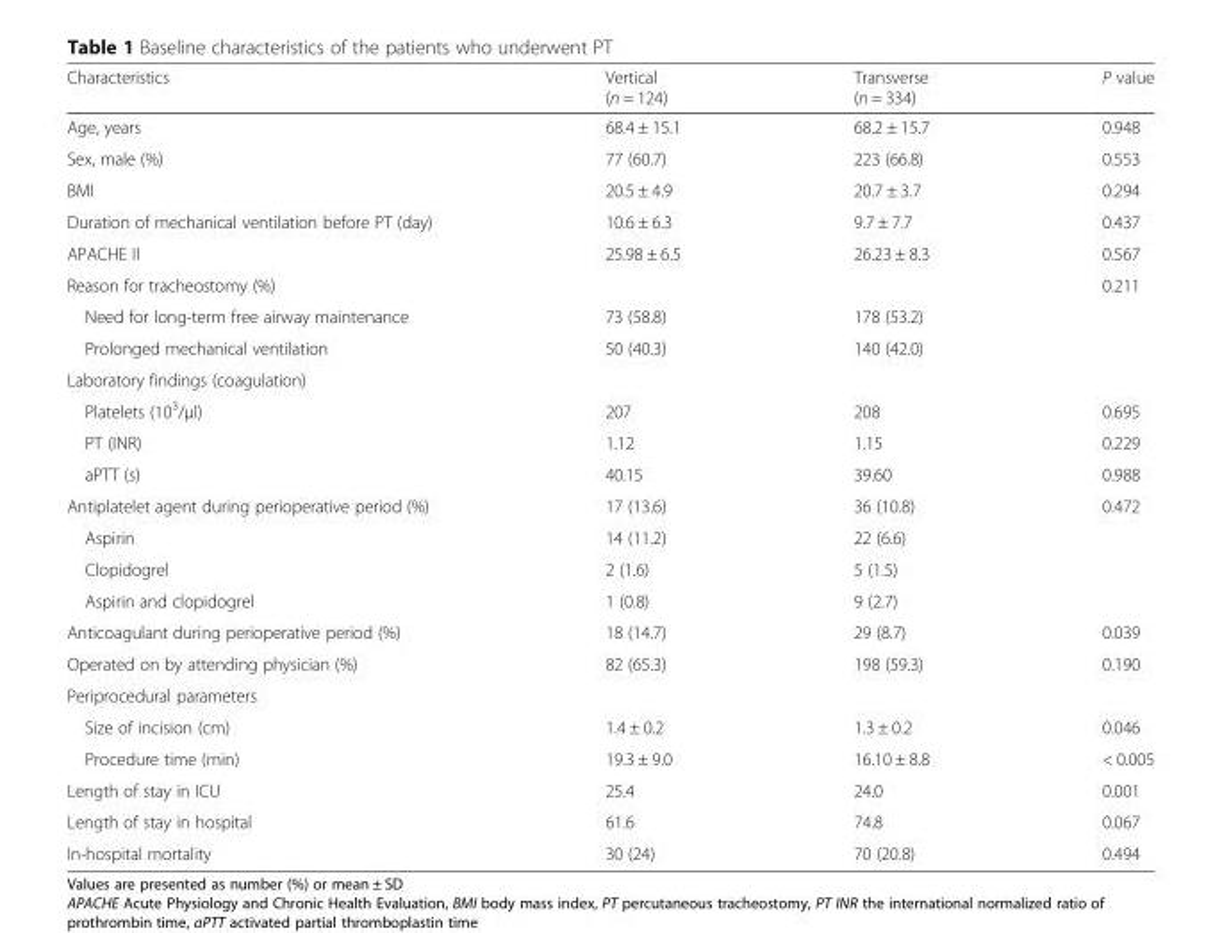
<table><thead><tr><td>Characteristics</td><td>Vertical (n = 124)</td><td>Transverse (n = 334)</td><td>P value</td></tr></thead><tbody><tr><td>Age, years</td><td>68.4 ± 15.1</td><td>68.2 ± 15.7</td><td>0.948</td></tr><tr><td>Sex, male (%)</td><td>77 (60.7)</td><td>223 (66.8)</td><td>0.553</td></tr><tr><td>BMI</td><td>20.5 ± 4.9</td><td>20.7 ± 3.7</td><td>0.294</td></tr><tr><td>Duration of mechanical ventilation before PT (day)</td><td>10.6 ± 6.3</td><td>9.7 ± 7.7</td><td>0.437</td></tr><tr><td>APACHE II</td><td>25.98 ± 6.5</td><td>26.23 ± 8.3</td><td>0.567</td></tr><tr><td>Reason for tracheostomy (%)</td><td colspan="2"></td><td>0.211</td></tr><tr><td>Need for long-term free airway maintenance</td><td>73 (58.8)</td><td>178 (53.2)</td><td></td></tr><tr><td>Prolonged mechanical ventilation</td><td>50 (40.3)</td><td>140 (42.0)</td><td></td></tr><tr><td colspan="4">Laboratory findings (coagulation)</td></tr><tr><td>Platelets (10<sup>3</sup>/μl)</td><td>207</td><td>208</td><td>0.695</td></tr><tr><td>PT (INR)</td><td>1.12</td><td>1.15</td><td>0.229</td></tr><tr><td>aPTT (s)</td><td>40.15</td><td>39.60</td><td>0.988</td></tr><tr><td>Antiplatelet agent during perioperative period (%)</td><td>17 (13.6)</td><td>36 (10.8)</td><td>0.472</td></tr><tr><td>Aspirin</td><td>14 (11.2)</td><td>22 (6.6)</td><td></td></tr><tr><td>Clopidogrel</td><td>2 (1.6)</td><td>5 (1.5)</td><td></td></tr><tr><td>Aspirin and clopidogrel</td><td>1 (0.8)</td><td>9 (2.7)</td><td></td></tr><tr><td>Anticoagulant during perioperative period (%)</td><td>18 (14.7)</td><td>29 (8.7)</td><td>0.039</td></tr><tr><td>Operated on by attending physician (%)</td><td>82 (65.3)</td><td>198 (59.3)</td><td>0.190</td></tr><tr><td colspan="4">Periprocedural parameters</td></tr><tr><td>Size of incision (cm)</td><td>1.4 ± 0.2</td><td>1.3 ± 0.2</td><td>0.046</td></tr><tr><td>Procedure time (min)</td><td>19.3 ± 9.0</td><td>16.10 ± 8.8</td><td>&lt; 0.005</td></tr><tr><td>Length of stay in ICU</td><td>25.4</td><td>24.0</td><td>0.001</td></tr><tr><td>Length of stay in hospital</td><td>61.6</td><td>74.8</td><td>0.067</td></tr><tr><td>In-hospital mortality</td><td>30 (24)</td><td>70 (20.8)</td><td>0.494</td></tr></tbody></table>